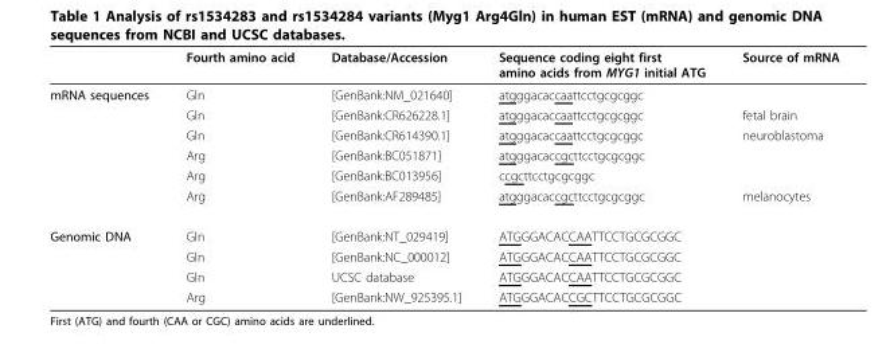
<table><thead><tr><td></td><td>Fourth amino acid</td><td>Database/Accession</td><td>Sequence coding eight first amino acids from MYG1 initial ATG</td><td>Source of mRNA</td></tr></thead><tbody><tr><td rowspan="6">mRNA sequences</td><td>Gln</td><td>[GenBank:NM_021640]</td><td>atgggacaccaattcctgcgcggc</td><td></td></tr><tr><td>Gln</td><td>[GenBank:CR626228.1]</td><td>atgggacaccaattcctgcgcggc</td><td>fetal brain</td></tr><tr><td>Gln</td><td>[GenBank:CR614390.1]</td><td>atgggacaccaattcctgcgcggc</td><td>neuroblastoma</td></tr><tr><td>Arg</td><td>[GenBank:BC051871]</td><td>atgggacaccgcttcctgcgcggc</td><td></td></tr><tr><td>Arg</td><td>[GenBank:BC013956]</td><td>ccgcttcctgcgcggc</td><td></td></tr><tr><td>Arg</td><td>[GenBank:AF289485]</td><td>atgggacaccgcttcctgcgcggc</td><td>melanocytes</td></tr><tr><td rowspan="4">Genomic DNA</td><td>Gln</td><td>[GenBank:NT_029419]</td><td>ATGGGACACCAATTCCTGCGCGGC</td><td></td></tr><tr><td>Gln</td><td>[GenBank:NC_000012]</td><td>ATGGGACACCAATTCCTGCGCGGC</td><td></td></tr><tr><td>Gln</td><td>UCSC database</td><td>ATGGGACACCAATTCCTGCGCGGC</td><td></td></tr><tr><td>Arg</td><td>[GenBank:NW_925395.1]</td><td>ATGGGACACCGCTTCCTGCGCGGC</td><td></td></tr></tbody></table>